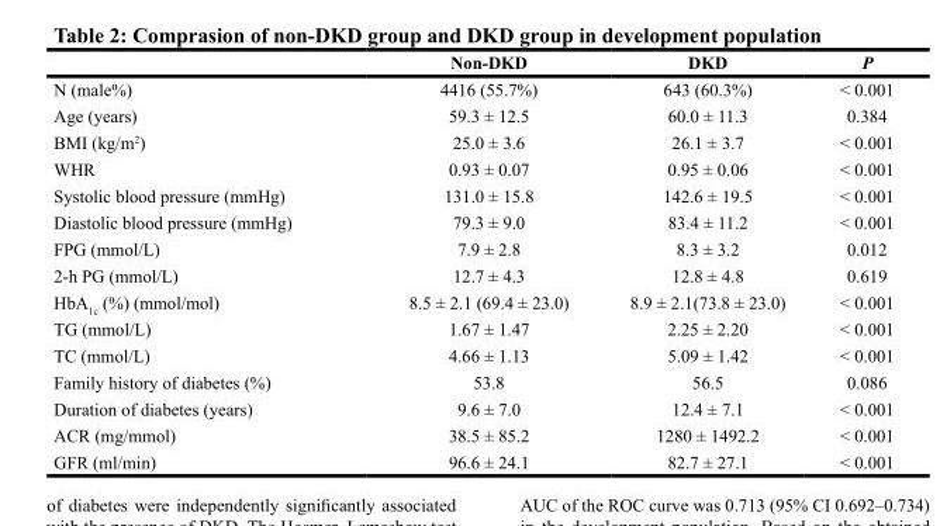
<table><thead><tr><td></td><td>Non-DKD</td><td>DKD</td><td>P</td></tr></thead><tbody><tr><td>N (male%)</td><td>4416 (55.7%)</td><td>643 (60.3%)</td><td>&lt; 0.001</td></tr><tr><td>Age (years)</td><td>59.3 ± 12.5</td><td>60.0 ± 11.3</td><td>0.384</td></tr><tr><td>BMI (kg/m<sup>2</sup>)</td><td>25.0 ± 3.6</td><td>26.1 ± 3.7</td><td>&lt; 0.001</td></tr><tr><td>WHR</td><td>0.93 ± 0.07</td><td>0.95 ± 0.06</td><td>&lt; 0.001</td></tr><tr><td>Systolic blood pressure (mmHg)</td><td>131.0 ± 15.8</td><td>142.6 ± 19.5</td><td>&lt; 0.001</td></tr><tr><td>Diastolic blood pressure (mmHg)</td><td>79.3 ± 9.0</td><td>83.4 ± 11.2</td><td>&lt; 0.001</td></tr><tr><td>FPG (mmol/L)</td><td>7.9 ± 2.8</td><td>8.3 ± 3.2</td><td>0.012</td></tr><tr><td>2-h PG (mmol/L)</td><td>12.7 ± 4.3</td><td>12.8 ± 4.8</td><td>0.619</td></tr><tr><td>HbA<sub>1c</sub> (%) (mmol/mol)</td><td>8.5 ± 2.1 (69.4 ± 23.0)</td><td>8.9 ± 2.1(73.8 ± 23.0)</td><td>&lt; 0.001</td></tr><tr><td>TG (mmol/L)</td><td>1.67 ± 1.47</td><td>2.25 ± 2.20</td><td>&lt; 0.001</td></tr><tr><td>TC (mmol/L)</td><td>4.66 ± 1.13</td><td>5.09 ± 1.42</td><td>&lt; 0.001</td></tr><tr><td>Family history of diabetes (%)</td><td>53.8</td><td>56.5</td><td>0.086</td></tr><tr><td>Duration of diabetes (years)</td><td>9.6 ± 7.0</td><td>12.4 ± 7.1</td><td>&lt; 0.001</td></tr><tr><td>ACR (mg/mmol)</td><td>38.5 ± 85.2</td><td>1280 ± 1492.2</td><td>&lt; 0.001</td></tr><tr><td>GFR (ml/min)</td><td>96.6 ± 24.1</td><td>82.7 ± 27.1</td><td>&lt; 0.001</td></tr></tbody></table>